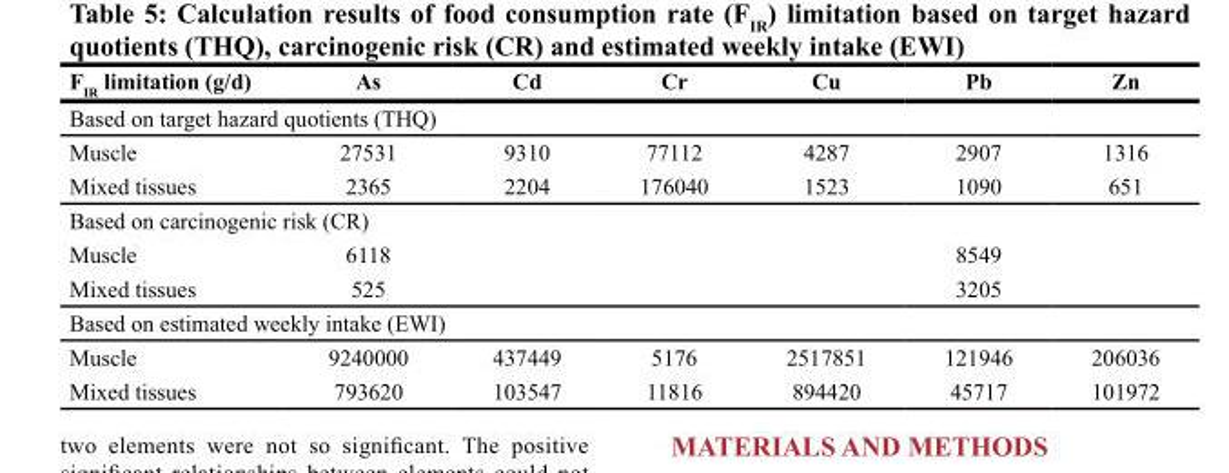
<table><thead><tr><td>F<sub>IR</sub> limitation (g/d)</td><td>As</td><td>Cd</td><td>Cr</td><td>Cu</td><td>Pb</td><td>Zn</td></tr></thead><tbody><tr><td colspan="7">Based on target hazard quotients (THQ)</td></tr><tr><td>Muscle</td><td>27531</td><td>9310</td><td>77112</td><td>4287</td><td>2907</td><td>1316</td></tr><tr><td>Mixed tissues</td><td>2365</td><td>2204</td><td>176040</td><td>1523</td><td>1090</td><td>651</td></tr><tr><td colspan="7">Based on carcinogenic risk (CR)</td></tr><tr><td>Muscle</td><td>6118</td><td></td><td></td><td></td><td>8549</td><td></td></tr><tr><td>Mixed tissues</td><td>525</td><td></td><td></td><td></td><td>3205</td><td></td></tr><tr><td colspan="7">Based on estimated weekly intake (EWI)</td></tr><tr><td>Muscle</td><td>9240000</td><td>437449</td><td>5176</td><td>2517851</td><td>121946</td><td>206036</td></tr><tr><td>Mixed tissues</td><td>793620</td><td>103547</td><td>11816</td><td>894420</td><td>45717</td><td>101972</td></tr></tbody></table>